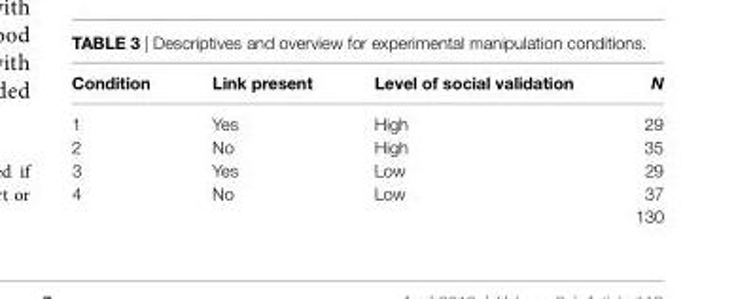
<table><thead><tr><td>condition</td><td>link present</td><td>level of social validation</td><td>N</td></tr></thead><tbody><tr><td>1</td><td>Yes</td><td>High</td><td>29</td></tr><tr><td>2</td><td>No</td><td>High</td><td>35</td></tr><tr><td>3</td><td>Yes</td><td>Low</td><td>29</td></tr><tr><td rowspan="2">4</td><td>No</td><td>Low</td><td>37</td></tr><tr><td></td><td></td><td>130</td></tr></tbody></table>